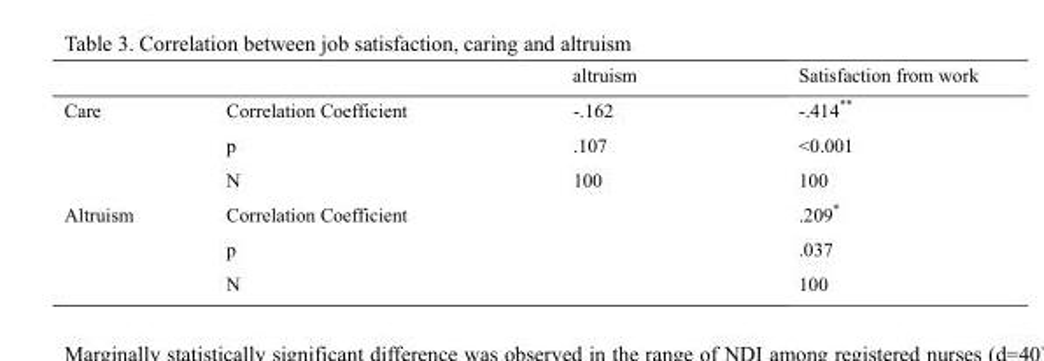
<table><thead><tr><td></td><td></td><td>altruism</td><td>Satisfaction from work</td></tr></thead><tbody><tr><td rowspan="3">Care</td><td>Correlation Coefficient</td><td>-.162</td><td>-.414**</td></tr><tr><td>p</td><td>.107</td><td>&lt;0.001</td></tr><tr><td>N</td><td>100</td><td>100</td></tr><tr><td rowspan="3">Altruism</td><td>Correlation Coefficient</td><td></td><td>.209*</td></tr><tr><td>p</td><td></td><td>.037</td></tr><tr><td>N</td><td></td><td>100</td></tr></tbody></table>